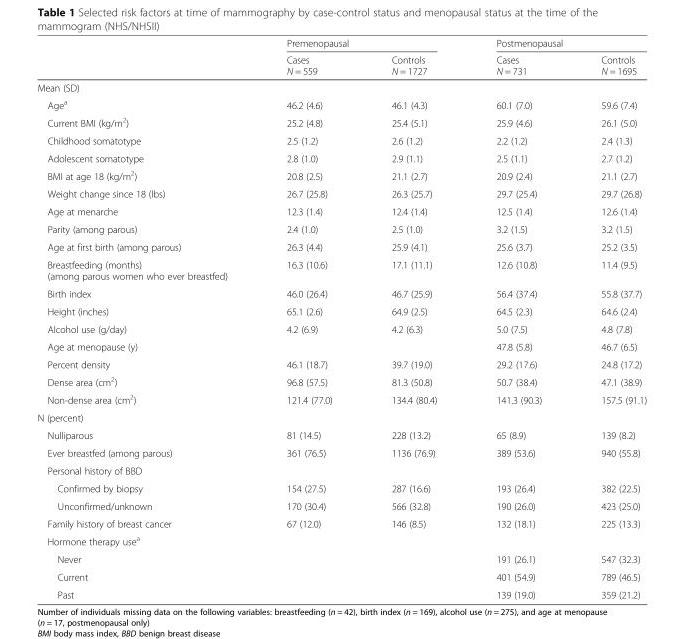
<table><thead><tr><td rowspan="2"></td><td colspan="2">Premenopausal</td><td colspan="2">Postmenopausal</td></tr><tr><td>Cases N = 559</td><td>Controls N = 1727</td><td>Cases N = 731</td><td>Controls N = 1695</td></tr></thead><tbody><tr><td colspan="5">Mean (SD)</td></tr><tr><td>Age<sup>a</sup></td><td>46.2 (4.6)</td><td>46.1 (4.3)</td><td>60.1 (7.0)</td><td>59.6 (7.4)</td></tr><tr><td>Current BMI (kg/m<sup>2</sup>)</td><td>25.2 (4.8)</td><td>25.4 (5.1)</td><td>25.9 (4.6)</td><td>26.1 (5.0)</td></tr><tr><td>Childhood somatotype</td><td>2.5 (1.2)</td><td>2.6 (1.2)</td><td>2.2 (1.2)</td><td>2.4 (1.3)</td></tr><tr><td>Adolescent somatotype</td><td>2.8 (1.0)</td><td>2.9 (1.1)</td><td>2.5 (1.1)</td><td>2.7 (1.2)</td></tr><tr><td>BMI at age 18 (kg/m<sup>2</sup>)</td><td>20.8 (2.5)</td><td>21.1 (2.7)</td><td>20.9 (2.4)</td><td>21.1 (2.7)</td></tr><tr><td>Weight change since 18 (lbs)</td><td>26.7 (25.8)</td><td>26.3 (25.7)</td><td>29.7 (25.4)</td><td>29.7 (26.8)</td></tr><tr><td>Age at menarche</td><td>12.3 (1.4)</td><td>12.4 (1.4)</td><td>12.5 (1.4)</td><td>12.6 (1.4)</td></tr><tr><td>Parity (among parous)</td><td>2.4 (1.0)</td><td>2.5 (1.0)</td><td>3.2 (1.5)</td><td>3.2 (1.5)</td></tr><tr><td>Age at first birth (among parous)</td><td>26.3 (4.4)</td><td>25.9 (4.1)</td><td>25.6 (3.7)</td><td>25.2 (3.5)</td></tr><tr><td>Breastfeeding (months) (among parous women who ever breastfed)</td><td>16.3 (10.6)</td><td>17.1 (11.1)</td><td>12.6 (10.8)</td><td>11.4 (9.5)</td></tr><tr><td>Birth index</td><td>46.0 (26.4)</td><td>46.7 (25.9)</td><td>56.4 (37.4)</td><td>55.8 (37.7)</td></tr><tr><td>Height (inches)</td><td>65.1 (2.6)</td><td>64.9 (2.5)</td><td>64.5 (2.3)</td><td>64.6 (2.4)</td></tr><tr><td>Alcohol use (g/day)</td><td>4.2 (6.9)</td><td>4.2 (6.3)</td><td>5.0 (7.5)</td><td>4.8 (7.8)</td></tr><tr><td>Age at menopause (y)</td><td></td><td></td><td>47.8 (5.8)</td><td>46.7 (6.5)</td></tr><tr><td>Percent density</td><td>46.1 (18.7)</td><td>39.7 (19.0)</td><td>29.2 (17.6)</td><td>24.8 (17.2)</td></tr><tr><td>Dense area (cm<sup>2</sup>)</td><td>96.8 (57.5)</td><td>81.3 (50.8)</td><td>50.7 (38.4)</td><td>47.1 (38.9)</td></tr><tr><td>Non-dense area (cm<sup>2</sup>)</td><td>121.4 (77.0)</td><td>134.4 (80.4)</td><td>141.3 (90.3)</td><td>157.5 (91.1)</td></tr><tr><td colspan="5">N (percent)</td></tr><tr><td>Nulliparous</td><td>81 (14.5)</td><td>228 (13.2)</td><td>65 (8.9)</td><td>139 (8.2)</td></tr><tr><td>Ever breastfed (among parous)</td><td>361 (76.5)</td><td>1136 (76.9)</td><td>389 (53.6)</td><td>940 (55.8)</td></tr><tr><td colspan="5">Personal history of BBD</td></tr><tr><td>Confirmed by biopsy</td><td>154 (27.5)</td><td>287 (16.6)</td><td>193 (26.4)</td><td>382 (22.5)</td></tr><tr><td>Unconfirmed/unknown</td><td>170 (30.4)</td><td>566 (32.8)</td><td>190 (26.0)</td><td>423 (25.0)</td></tr><tr><td>Family history of breast cancer</td><td>67 (12.0)</td><td>146 (8.5)</td><td>132 (18.1)</td><td>225 (13.3)</td></tr><tr><td colspan="5">Hormone therapy use<sup>a</sup></td></tr><tr><td>Never</td><td></td><td></td><td>191 (26.1)</td><td>547 (32.3)</td></tr><tr><td>Current</td><td></td><td></td><td>401 (54.9)</td><td>789 (46.5)</td></tr><tr><td>Past</td><td></td><td></td><td>139 (19.0)</td><td>359 (21.2)</td></tr></tbody></table>